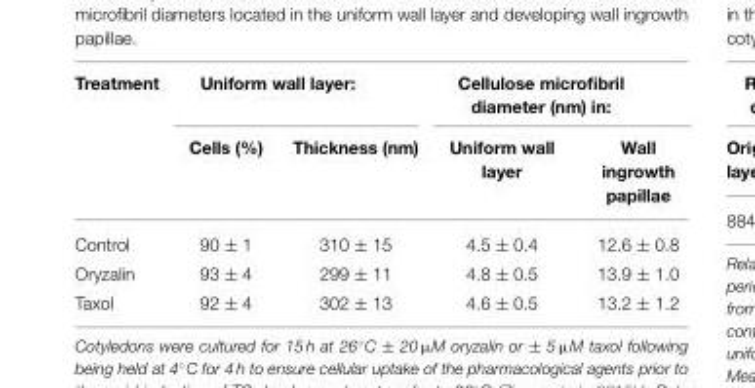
<table><thead><tr><td rowspan="2">Treatment</td><td colspan="2">Uniform wall layer:</td><td colspan="2">Cellulose microfibril diameter (nm) in:</td></tr><tr><td>Cells (%)</td><td>Thickness (nm)</td><td>Uniform wall layer</td><td>Wall ingrowth papillae</td></tr></thead><tbody><tr><td>Control</td><td>90 ± 1</td><td>310 ± 15</td><td>4.5 ± 0.4</td><td>12.6 ± 0.8</td></tr><tr><td>Oryzalin</td><td>93 ± 4</td><td>299 ± 11</td><td>4.8 ± 0.5</td><td>13.9 ± 1.0</td></tr><tr><td>Taxol</td><td>92 ± 4</td><td>302 ± 13</td><td>4.6 ± 0.5</td><td>13.2 ± 1.2</td></tr></tbody></table>